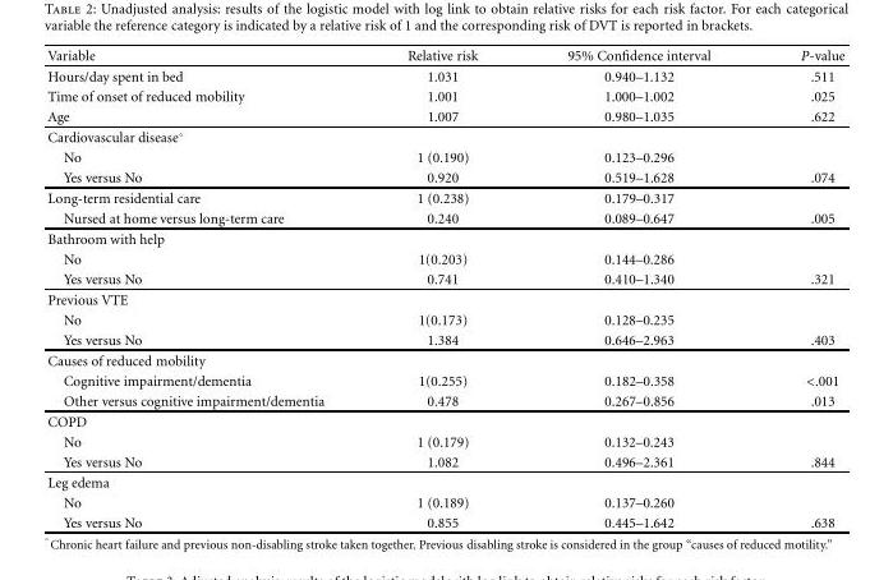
<table><thead><tr><td>Variable</td><td>Relative risk</td><td>95% Confidence interval</td><td>P-value</td></tr></thead><tbody><tr><td>Hours/day spent in bed</td><td>1.031</td><td>0.940–1.132</td><td>.511</td></tr><tr><td>Time of onset of reduced mobility</td><td>1.001</td><td>1.000–1.002</td><td>.025</td></tr><tr><td>Age</td><td>1.007</td><td>0.980–1.035</td><td>.622</td></tr><tr><td colspan="4">Cardiovascular disease◦</td></tr><tr><td>No</td><td>1 (0.190)</td><td>0.123–0.296</td><td></td></tr><tr><td>Yes versus No</td><td>0.920</td><td>0.519–1.628</td><td>.074</td></tr><tr><td>Long-term residential care</td><td>1 (0.238)</td><td>0.179–0.317</td><td></td></tr><tr><td>Nursed at home versus long-term care</td><td>0.240</td><td>0.089–0.647</td><td>.005</td></tr><tr><td colspan="4">Bathroom with help</td></tr><tr><td>No</td><td>1(0.203)</td><td>0.144–0.286</td><td></td></tr><tr><td>Yes versus No</td><td>0.741</td><td>0.410–1.340</td><td>.321</td></tr><tr><td colspan="4">Previous VTE</td></tr><tr><td>No</td><td>1(0.173)</td><td>0.128–0.235</td><td></td></tr><tr><td>Yes versus No</td><td>1.384</td><td>0.646–2.963</td><td>.403</td></tr><tr><td colspan="4">Causes of reduced mobility</td></tr><tr><td>Cognitive impairment/dementia</td><td>1(0.255)</td><td>0.182–0.358</td><td>&lt;.001</td></tr><tr><td>Other versus cognitive impairment/dementia</td><td>0.478</td><td>0.267–0.856</td><td>.013</td></tr><tr><td colspan="4">COPD</td></tr><tr><td>No</td><td>1 (0.179)</td><td>0.132–0.243</td><td></td></tr><tr><td>Yes versus No</td><td>1.082</td><td>0.496–2.361</td><td>.844</td></tr><tr><td colspan="4">Leg edema</td></tr><tr><td>No</td><td>1 (0.189)</td><td>0.137–0.260</td><td></td></tr><tr><td>Yes versus No</td><td>0.855</td><td>0.445–1.642</td><td>.638</td></tr></tbody></table>